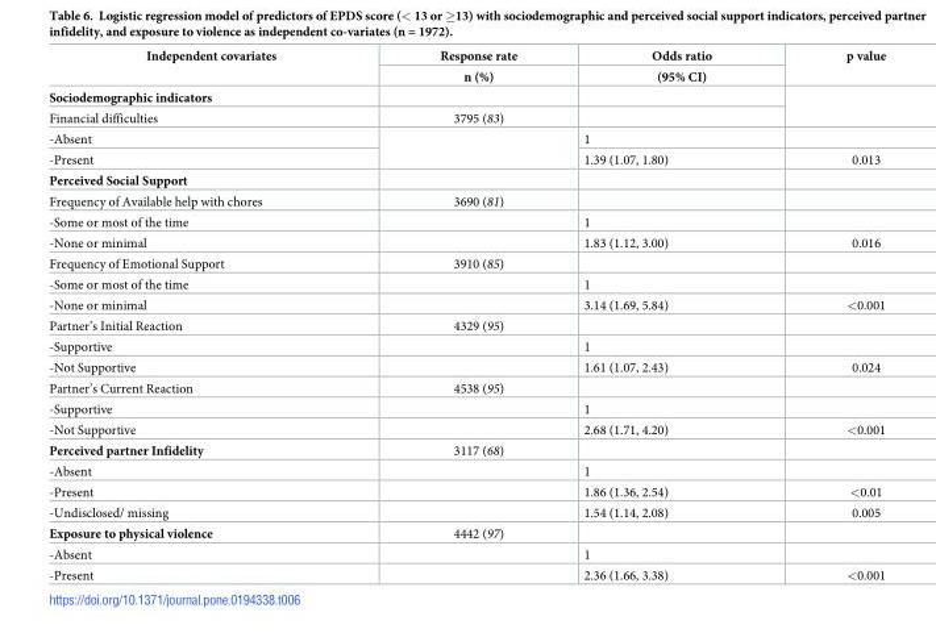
<table><thead><tr><td rowspan="2">Independent covariates</td><td rowspan="2">Response rate n (%)</td><td rowspan="2">Odds ratio (95% CI)</td><td rowspan="2">p value</td></tr><tr></tr></thead><tbody><tr><td colspan="3">Sociodemographic indicators</td><td rowspan="2"></td></tr><tr><td>Financial difficulties</td><td>3795 (83)</td><td></td></tr><tr><td>-Absent</td><td rowspan="2"></td><td>1</td><td></td></tr><tr><td>-Present</td><td>1.39 (1.07, 1.80)</td><td>0.013</td></tr><tr><td colspan="4">Perceived Social Support</td></tr><tr><td>Frequency of Available help with chores</td><td>3690 (81)</td><td></td><td></td></tr><tr><td>-Some or most of the time</td><td></td><td>1</td><td></td></tr><tr><td>-None or minimal</td><td></td><td>1.83 (1.12, 3.00)</td><td>0.016</td></tr><tr><td>Frequency of Emotional Support</td><td>3910 (85)</td><td></td><td></td></tr><tr><td>-Some or most of the time</td><td></td><td>1</td><td></td></tr><tr><td>-None or minimal</td><td></td><td>3.14 (1.69, 5.84)</td><td>&lt;0.001</td></tr><tr><td>Partner’s Initial Reaction</td><td>4329 (95)</td><td></td><td></td></tr><tr><td>-Supportive</td><td></td><td>1</td><td></td></tr><tr><td>-Not Supportive</td><td></td><td>1.61 (1.07, 2.43)</td><td>0.024</td></tr><tr><td>Partner’s Current Reaction</td><td>4538 (95)</td><td></td><td></td></tr><tr><td>-Supportive</td><td></td><td>1</td><td></td></tr><tr><td>-Not Supportive</td><td></td><td>2.68 (1.71, 4.20)</td><td>&lt;0.001</td></tr><tr><td>Perceived partner Infidelity</td><td>3117 (68)</td><td></td><td></td></tr><tr><td>-Absent</td><td></td><td>1</td><td></td></tr><tr><td>-Present</td><td></td><td>1.86 (1.36, 2.54)</td><td>&lt;0.01</td></tr><tr><td>-Undisclosed/ missing</td><td></td><td>1.54 (1.14, 2.08)</td><td>0.005</td></tr><tr><td>Exposure to physical violence</td><td>4442 (97)</td><td></td><td></td></tr><tr><td>-Absent</td><td></td><td>1</td><td></td></tr><tr><td>-Present</td><td></td><td>2.36 (1.66, 3.38)</td><td>&lt;0.001</td></tr></tbody></table>